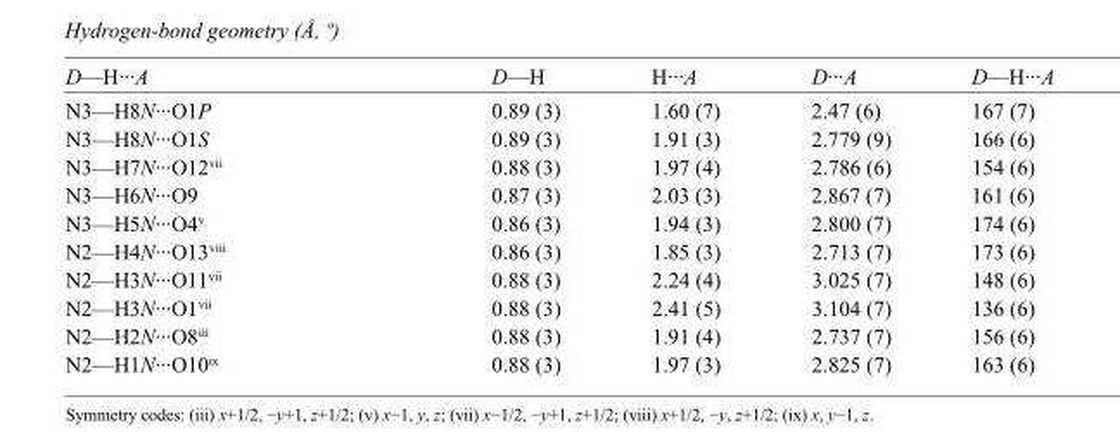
<table><tbody><tr><td>D—H···A</td><td>D—H</td><td>H···A</td><td>D···A</td><td>D—H···A</td></tr><tr><td>N3—H8N···O1P</td><td>0.89 (3)</td><td>1.60 (7)</td><td>2.47 (6)</td><td>167 (7)</td></tr><tr><td>N3—H8N···O1S</td><td>0.89 (3)</td><td>1.91 (3)</td><td>2.779 (9)</td><td>166 (6)</td></tr><tr><td>N3—H7N···O12<sup>vii</sup></td><td>0.88 (3)</td><td>1.97 (4)</td><td>2.786 (6)</td><td>154 (6)</td></tr><tr><td>N3—H6N···O9</td><td>0.87 (3)</td><td>2.03 (3)</td><td>2.867 (7)</td><td>161 (6)</td></tr><tr><td>N3—H5N···O4<sup>v</sup></td><td>0.86 (3)</td><td>1.94 (3)</td><td>2.800 (7)</td><td>174 (6)</td></tr><tr><td>N2—H4N···O13<sup>viii</sup></td><td>0.86 (3)</td><td>1.85 (3)</td><td>2.713 (7)</td><td>173 (6)</td></tr><tr><td>N2—H3N···O11<sup>vii</sup></td><td>0.88 (3)</td><td>2.24 (4)</td><td>3.025 (7)</td><td>148 (6)</td></tr><tr><td>N2—H3N···O1<sup>vii</sup></td><td>0.88 (3)</td><td>2.41 (5)</td><td>3.104 (7)</td><td>136 (6)</td></tr><tr><td>N2—H2N···O8<sup>iii</sup></td><td>0.88 (3)</td><td>1.91 (4)</td><td>2.737 (7)</td><td>156 (6)</td></tr><tr><td>N2—H1N···O10<sup>ix</sup></td><td>0.88 (3)</td><td>1.97 (3)</td><td>2.825 (7)</td><td>163 (6)</td></tr></tbody></table>